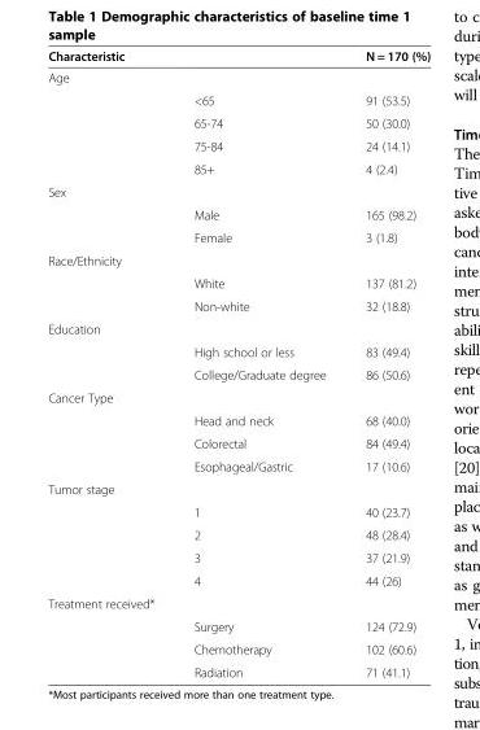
<table><thead><tr><td>Characteristic</td><td></td><td>N = 170 (%)</td></tr></thead><tbody><tr><td colspan="3">Age</td></tr><tr><td></td><td>&lt;65</td><td>91 (53.5)</td></tr><tr><td></td><td>65-74</td><td>50 (30.0)</td></tr><tr><td></td><td>75-84</td><td>24 (14.1)</td></tr><tr><td></td><td>85+</td><td>4 (2.4)</td></tr><tr><td colspan="3">Sex</td></tr><tr><td></td><td>Male</td><td>165 (98.2)</td></tr><tr><td></td><td>Female</td><td>3 (1.8)</td></tr><tr><td colspan="3">Race/Ethnicity</td></tr><tr><td></td><td>White</td><td>137 (81.2)</td></tr><tr><td></td><td>Non-white</td><td>32 (18.8)</td></tr><tr><td colspan="3">Education</td></tr><tr><td></td><td>High school or less</td><td>83 (49.4)</td></tr><tr><td></td><td>College/Graduate degree</td><td>86 (50.6)</td></tr><tr><td colspan="3">Cancer Type</td></tr><tr><td></td><td>Head and neck</td><td>68 (40.0)</td></tr><tr><td></td><td>Colorectal</td><td>84 (49.4)</td></tr><tr><td></td><td>Esophageal/Gastric</td><td>17 (10.6)</td></tr><tr><td colspan="3">Tumor stage</td></tr><tr><td></td><td>1</td><td>40 (23.7)</td></tr><tr><td></td><td>2</td><td>48 (28.4)</td></tr><tr><td></td><td>3</td><td>37 (21.9)</td></tr><tr><td></td><td>4</td><td>44 (26)</td></tr><tr><td colspan="3">Treatment received*</td></tr><tr><td></td><td>Surgery</td><td>124 (72.9)</td></tr><tr><td></td><td>Chemotherapy</td><td>102 (60.6)</td></tr><tr><td></td><td>Radiation</td><td>71 (41.1)</td></tr></tbody></table>